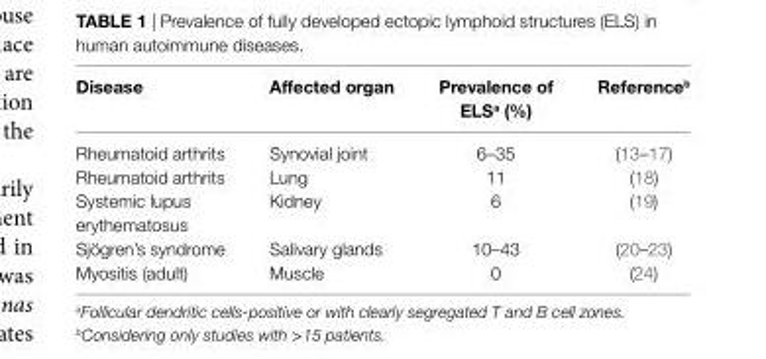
<table><thead><tr><td>Disease</td><td>affected organ</td><td>Prevalence of eLS<sup>a</sup> (%)</td><td>Reference<sup>b</sup></td></tr></thead><tbody><tr><td>Rheumatoid arthrits</td><td>Synovial joint</td><td>6–35</td><td>(13–17)</td></tr><tr><td>Rheumatoid arthrits</td><td>Lung</td><td>11</td><td>(18)</td></tr><tr><td>Systemic lupus erythematosus</td><td>Kidney</td><td>6</td><td>(19)</td></tr><tr><td>Sjögren’s syndrome</td><td>Salivary glands</td><td>10–43</td><td>(20–23)</td></tr><tr><td>Myositis (adult)</td><td>Muscle</td><td>0</td><td>(24)</td></tr></tbody></table>